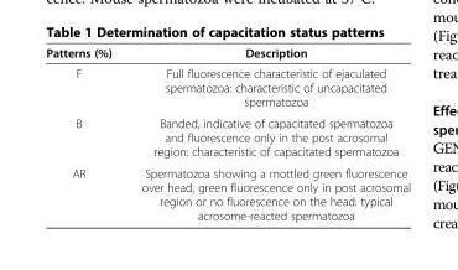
<table><thead><tr><td>Patterns (%)</td><td>Description</td></tr></thead><tbody><tr><td>F</td><td>Full fluorescence characteristic of ejaculated spermatozoa: characteristic of uncapacitated spermatozoa</td></tr><tr><td>B</td><td>Banded, indicative of capacitated spermatozoa and fluorescence only in the post acrosomal region: characteristic of capacitated spermatozoa</td></tr><tr><td>AR</td><td>Spermatozoa showing a mottled green fluorescence over head, green fluorescence only in post acrosomal region or no fluorescence on the head: typical acrosome-reacted spermatozoa</td></tr></tbody></table>